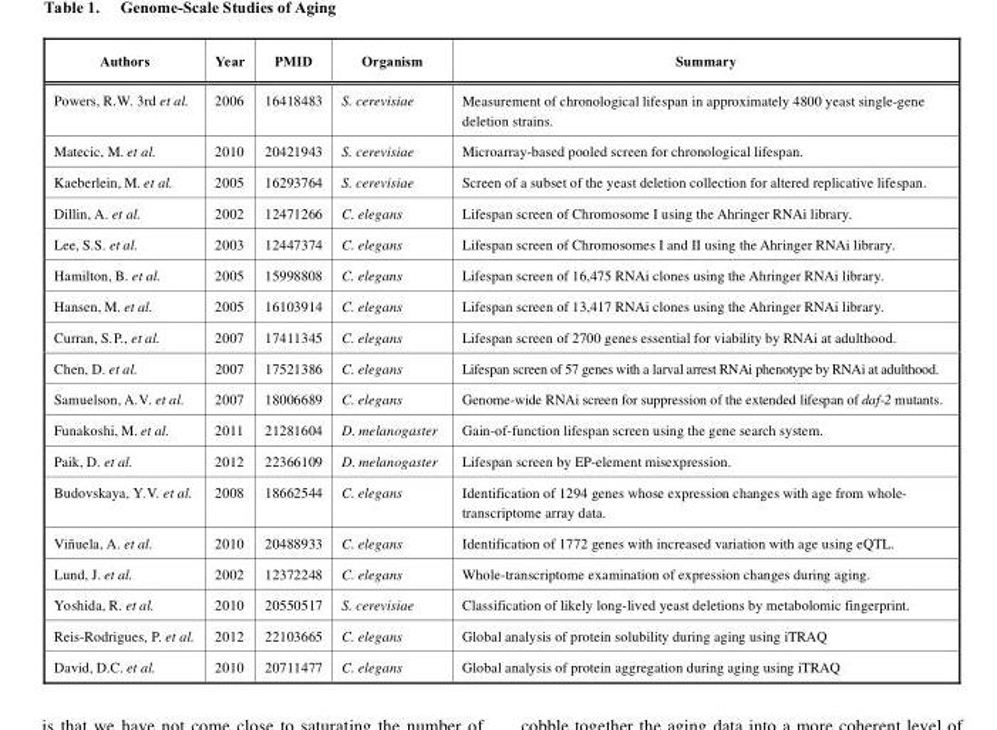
<table><thead><tr><td>Authors</td><td>Year</td><td>PMID</td><td>Organism</td><td>Summary</td></tr></thead><tbody><tr><td>Powers, R.W. 3rd et al.</td><td>2006</td><td>16418483</td><td>S. cerevisiae</td><td>Measurement of chronological lifespan in approximately 4800 yeast single-gene deletion strains.</td></tr><tr><td>Matecic, M. et al.</td><td>2010</td><td>20421943</td><td>S. cerevisiae</td><td>Microarray-based pooled screen for chronological lifespan.</td></tr><tr><td>Kaeberlein, M. et al.</td><td>2005</td><td>16293764</td><td>S. cerevisiae</td><td>Screen of a subset of the yeast deletion collection for altered replicative lifespan.</td></tr><tr><td>Dillin, A. et al.</td><td>2002</td><td>12471266</td><td>C. elegans</td><td>Lifespan screen of Chromosome I using the Ahringer RNAi library.</td></tr><tr><td>Lee, S.S. et al.</td><td>2003</td><td>12447374</td><td>C. elegans</td><td>Lifespan screen of Chromosomes I and II using the Ahringer RNAi library.</td></tr><tr><td>Hamilton, B. et al.</td><td>2005</td><td>15998808</td><td>C. elegans</td><td>Lifespan screen of 16,475 RNAi clones using the Ahringer RNAi library.</td></tr><tr><td>Hansen, M. et al.</td><td>2005</td><td>16103914</td><td>C. elegans</td><td>Lifespan screen of 13,417 RNAi clones using the Ahringer RNAi library.</td></tr><tr><td>Curran, S.P., et al.</td><td>2007</td><td>17411345</td><td>C. elegans</td><td>Lifespan screen of 2700 genes essential for viability by RNAi at adulthood.</td></tr><tr><td>Chen, D. et al.</td><td>2007</td><td>17521386</td><td>C. elegans</td><td>Lifespan screen of 57 genes with a larval arrest RNAi phenotype by RNAi at adulthood.</td></tr><tr><td>Samuelson, A.V. et al.</td><td>2007</td><td>18006689</td><td>C. elegans</td><td>Genome-wide RNAi screen for suppression of the extended lifespan of daf-2 mutants.</td></tr><tr><td>Funakoshi, M. et al.</td><td>2011</td><td>21281604</td><td>D. melanogaster</td><td>Gain-of-function lifespan screen using the gene search system.</td></tr><tr><td>Paik, D. et al.</td><td>2012</td><td>22366109</td><td>D. melanogaster</td><td>Lifespan screen by EP-element misexpression.</td></tr><tr><td>Budovskaya, Y.V. et al.</td><td>2008</td><td>18662544</td><td>C. elegans</td><td>Identification of 1294 genes whose expression changes with age from whole- transcriptome array data.</td></tr><tr><td>Viñuela, A. et al.</td><td>2010</td><td>20488933</td><td>C. elegans</td><td>Identification of 1772 genes with increased variation with age using eQTL.</td></tr><tr><td>Lund, J. et al.</td><td>2002</td><td>12372248</td><td>C. elegans</td><td>Whole-transcriptome examination of expression changes during aging.</td></tr><tr><td>Yoshida, R. et al.</td><td>2010</td><td>20550517</td><td>S. cerevisiae</td><td>Classification of likely long-lived yeast deletions by metabolomic fingerprint.</td></tr><tr><td>Reis-Rodrigues, P. et al.</td><td>2012</td><td>22103665</td><td>C. elegans</td><td>Global analysis of protein solubility during aging using iTRAQ</td></tr><tr><td>David, D.C. et al.</td><td>2010</td><td>20711477</td><td>C. elegans</td><td>Global analysis of protein aggregation during aging using iTRAQ</td></tr></tbody></table>